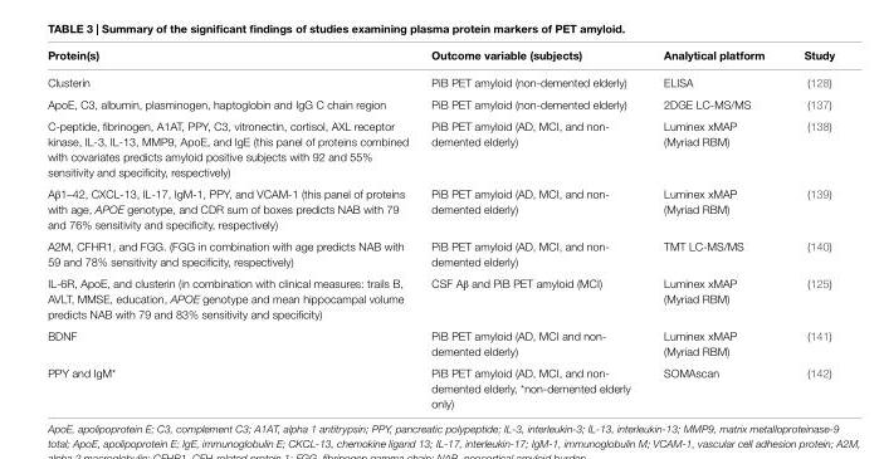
<table><thead><tr><td>Protein(s)</td><td>Outcome variable (subjects)</td><td>Analytical platform</td><td>Study</td></tr></thead><tbody><tr><td>Clusterin</td><td>PiB PET amyloid (non-demented elderly)</td><td>ELISA</td><td>(128)</td></tr><tr><td>ApoE, C3, albumin, plasminogen, haptoglobin and IgG C chain region</td><td>PiB PET amyloid (non-demented elderly)</td><td>2DGE LC-MS/MS</td><td>(137)</td></tr><tr><td>C-peptide, fibrinogen, A1AT, PPY, C3, vitronectin, cortisol, AXL receptor kinase, IL-3, IL-13, MMP9, ApoE, and IgE (this panel of proteins combined with covariates predicts amyloid positive subjects with 92 and 55% sensitivity and specificity, respectively)</td><td>PiB PET amyloid (AD, MCI, and non- demented elderly)</td><td>Luminex xMAP (Myriad RBM)</td><td>(138)</td></tr><tr><td>Aβ1–42, CXCL-13, IL-17, IgM-1, PPY, and VCAM-1 (this panel of proteins with age, APOE genotype, and CDR sum of boxes predicts NAB with 79 and 76% sensitivity and specificity, respectively)</td><td>PiB PET amyloid (AD, MCI, and non- demented elderly)</td><td>Luminex xMAP (Myriad RBM)</td><td>(139)</td></tr><tr><td>A2M, CFHR1, and FGG. (FGG in combination with age predicts NAB with 59 and 78% sensitivity and specificity, respectively)</td><td>PiB PET amyloid (AD, MCI, and non- demented elderly)</td><td>TMT LC-MS/MS</td><td>(140)</td></tr><tr><td>IL-6R, ApoE, and clusterin (in combination with clinical measures: trails B, AVLT, MMSE, education, APOE genotype and mean hippocampal volume predicts NAB with 79 and 83% sensitivity and specificity)</td><td>CSF Aβ and PiB PET amyloid (MCI)</td><td>Luminex xMAP (Myriad RBM)</td><td>(125)</td></tr><tr><td>BDNF</td><td>PiB PET amyloid (AD, MCI and non- demented elderly)</td><td>Luminex xMAP (Myriad RBM)</td><td>(141)</td></tr><tr><td>PPY and IgM*</td><td>PiB PET amyloid (AD, MCI, and non- demented elderly, *non-demented elderly only)</td><td>SOMAscan</td><td>(142)</td></tr></tbody></table>